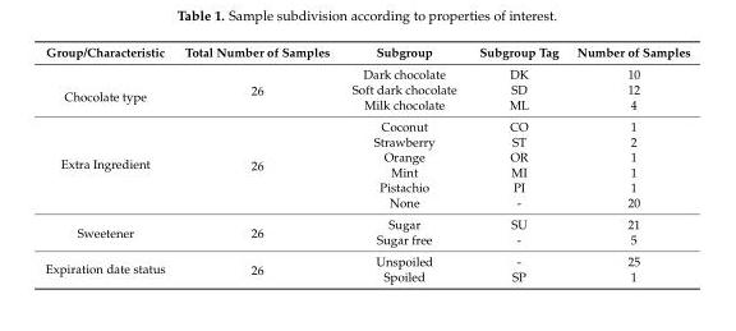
<table><thead><tr><td>Group/Characteristic</td><td>Total Number of Samples</td><td>Subgroup</td><td>Subgroup Tag</td><td>Number of Samples</td></tr></thead><tbody><tr><td rowspan="3">Chocolate type</td><td rowspan="3">26</td><td>Dark chocolate</td><td>DK</td><td>10</td></tr><tr><td>Soft dark chocolate</td><td>SD</td><td>12</td></tr><tr><td>Milk chocolate</td><td>ML</td><td>4</td></tr><tr><td rowspan="6">Extra Ingredient</td><td rowspan="6">26</td><td>Coconut</td><td>CO</td><td>1</td></tr><tr><td>Strawberry</td><td>ST</td><td>2</td></tr><tr><td>Orange</td><td>OR</td><td>1</td></tr><tr><td>Mint</td><td>MI</td><td>1</td></tr><tr><td>Pistachio</td><td>PI</td><td>1</td></tr><tr><td>None</td><td>-</td><td>20</td></tr><tr><td rowspan="2">Sweetener</td><td rowspan="2">26</td><td>Sugar</td><td>SU</td><td>21</td></tr><tr><td>Sugar free</td><td>-</td><td>5</td></tr><tr><td rowspan="2">Expiration date status</td><td rowspan="2">26</td><td>Unspoiled</td><td>-</td><td>25</td></tr><tr><td>Spoiled</td><td>SP</td><td>1</td></tr></tbody></table>